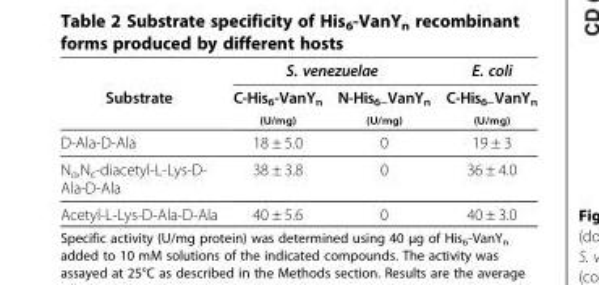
<table><thead><tr><td rowspan="2">Substrate</td><td colspan="2">S. venezuelae</td><td rowspan="2">E. coli C-His6−VanYn (U/mg)</td></tr><tr><td>C-His6-VanYn (U/mg)</td><td>N-His<sub>6−</sub>VanY<sub>n (U/mg)</sub></td></tr></thead><tbody><tr><td>D-Ala-D-Ala</td><td>18 ± 5.0</td><td>0</td><td>19 ± 3</td></tr><tr><td>N<sub>α</sub>,N<sub>ε</sub>-diacetyl-L-Lys-D- Ala-D-Ala</td><td>38 ± 3.8</td><td>0</td><td>36 ± 4.0</td></tr><tr><td>Acetyl-L-Lys-D-Ala-D-Ala</td><td>40 ± 5.6</td><td>0</td><td>40 ± 3.0</td></tr></tbody></table>